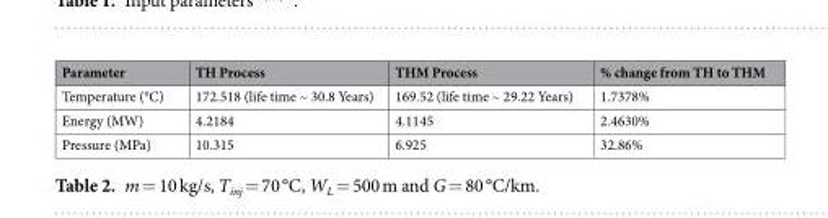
<table><thead><tr><td>Parameter</td><td>TH Process</td><td>THM Process</td><td>% change from TH to THM</td></tr></thead><tbody><tr><td>Temperature (°C)</td><td>172.518 (life time ~ 30.8 Years)</td><td>169.52 (life time ~ 29.22 Years)</td><td>1.7378%</td></tr><tr><td>Energy (MW)</td><td>4.2184</td><td>4.1145</td><td>2.4630%</td></tr><tr><td>Pressure (MPa)</td><td>10.315</td><td>6.925</td><td>32.86%</td></tr></tbody></table>